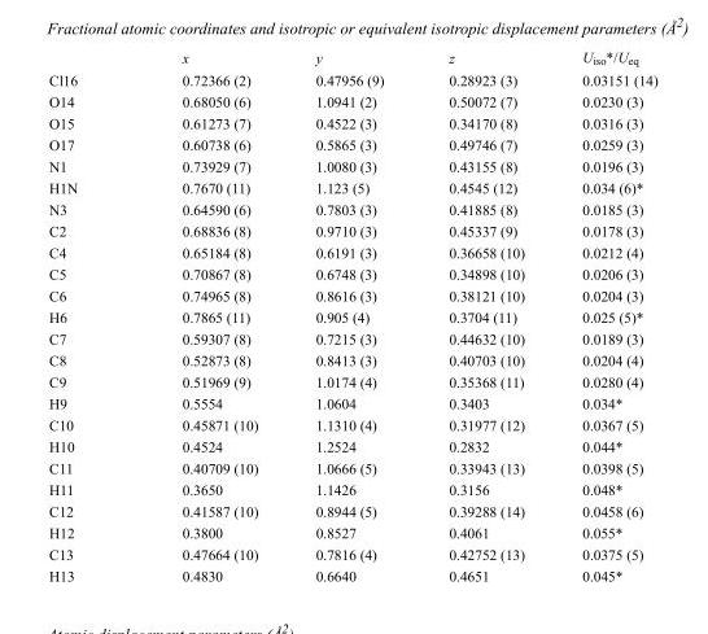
<table><thead><tr><td></td><td>x</td><td>y</td><td>z</td><td>U<sub>iso</sub>*/U<sub>eq</sub></td></tr></thead><tbody><tr><td>Cl16</td><td>0.72366 (2)</td><td>0.47956 (9)</td><td>0.28923 (3)</td><td>0.03151 (14)</td></tr><tr><td>O14</td><td>0.68050 (6)</td><td>1.0941 (2)</td><td>0.50072 (7)</td><td>0.0230 (3)</td></tr><tr><td>O15</td><td>0.61273 (7)</td><td>0.4522 (3)</td><td>0.34170 (8)</td><td>0.0316 (3)</td></tr><tr><td>O17</td><td>0.60738 (6)</td><td>0.5865 (3)</td><td>0.49746 (7)</td><td>0.0259 (3)</td></tr><tr><td>N1</td><td>0.73929 (7)</td><td>1.0080 (3)</td><td>0.43155 (8)</td><td>0.0196 (3)</td></tr><tr><td>H1N</td><td>0.7670 (11)</td><td>1.123 (5)</td><td>0.4545 (12)</td><td>0.034 (6)*</td></tr><tr><td>N3</td><td>0.64590 (6)</td><td>0.7803 (3)</td><td>0.41885 (8)</td><td>0.0185 (3)</td></tr><tr><td>C2</td><td>0.68836 (8)</td><td>0.9710 (3)</td><td>0.45337 (9)</td><td>0.0178 (3)</td></tr><tr><td>C4</td><td>0.65184 (8)</td><td>0.6191 (3)</td><td>0.36658 (10)</td><td>0.0212 (4)</td></tr><tr><td>C5</td><td>0.70867 (8)</td><td>0.6748 (3)</td><td>0.34898 (10)</td><td>0.0206 (3)</td></tr><tr><td>C6</td><td>0.74965 (8)</td><td>0.8616 (3)</td><td>0.38121 (10)</td><td>0.0204 (3)</td></tr><tr><td>H6</td><td>0.7865 (11)</td><td>0.905 (4)</td><td>0.3704 (11)</td><td>0.025 (5)*</td></tr><tr><td>C7</td><td>0.59307 (8)</td><td>0.7215 (3)</td><td>0.44632 (10)</td><td>0.0189 (3)</td></tr><tr><td>C8</td><td>0.52873 (8)</td><td>0.8413 (3)</td><td>0.40703 (10)</td><td>0.0204 (4)</td></tr><tr><td>C9</td><td>0.51969 (9)</td><td>1.0174 (4)</td><td>0.35368 (11)</td><td>0.0280 (4)</td></tr><tr><td>H9</td><td>0.5554</td><td>1.0604</td><td>0.3403</td><td>0.034*</td></tr><tr><td>C10</td><td>0.45871 (10)</td><td>1.1310 (4)</td><td>0.31977 (12)</td><td>0.0367 (5)</td></tr><tr><td>H10</td><td>0.4524</td><td>1.2524</td><td>0.2832</td><td>0.044*</td></tr><tr><td>C11</td><td>0.40709 (10)</td><td>1.0666 (5)</td><td>0.33943 (13)</td><td>0.0398 (5)</td></tr><tr><td>H11</td><td>0.3650</td><td>1.1426</td><td>0.3156</td><td>0.048*</td></tr><tr><td>C12</td><td>0.41587 (10)</td><td>0.8944 (5)</td><td>0.39288 (14)</td><td>0.0458 (6)</td></tr><tr><td>H12</td><td>0.3800</td><td>0.8527</td><td>0.4061</td><td>0.055*</td></tr><tr><td>C13</td><td>0.47664 (10)</td><td>0.7816 (4)</td><td>0.42752 (13)</td><td>0.0375 (5)</td></tr><tr><td>H13</td><td>0.4830</td><td>0.6640</td><td>0.4651</td><td>0.045*</td></tr></tbody></table>